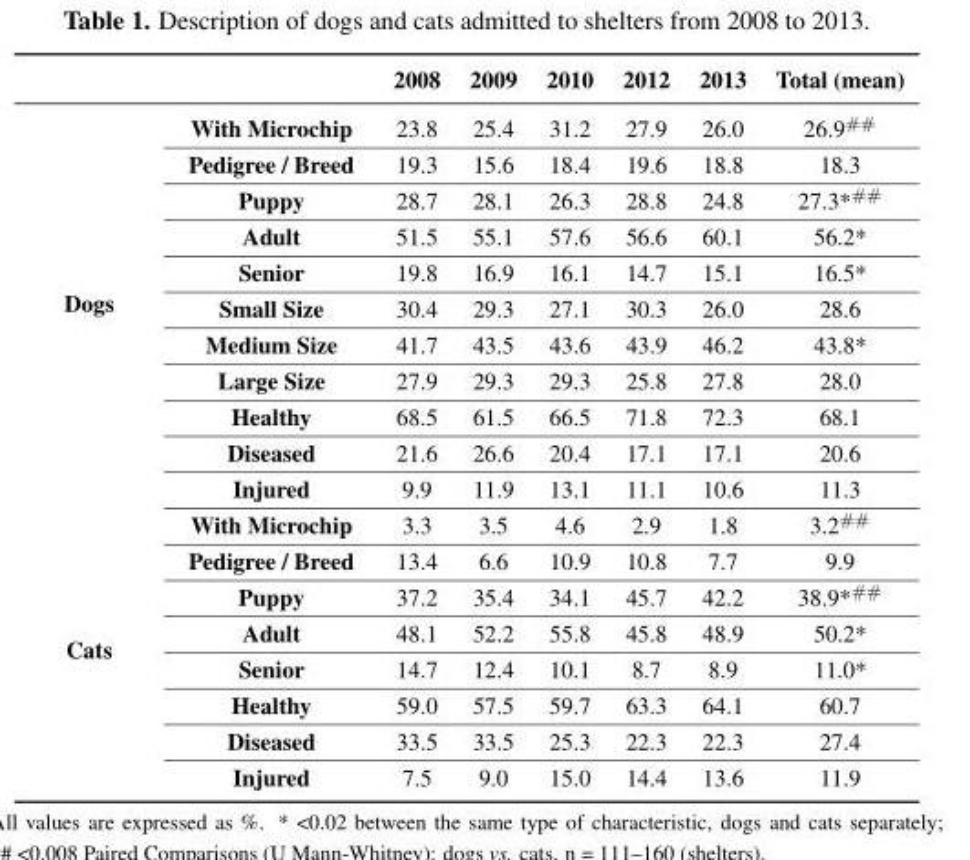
<table><thead><tr><td></td><td></td><td>2008</td><td>2009</td><td>2010</td><td>2012</td><td>2013</td><td>Total (mean)</td></tr></thead><tbody><tr><td rowspan="11">Dogs</td><td>With Microchip</td><td>23.8</td><td>25.4</td><td>31.2</td><td>27.9</td><td>26.0</td><td>26.9<sup>##</sup></td></tr><tr><td>Pedigree / Breed</td><td>19.3</td><td>15.6</td><td>18.4</td><td>19.6</td><td>18.8</td><td>18.3</td></tr><tr><td>Puppy</td><td>28.7</td><td>28.1</td><td>26.3</td><td>28.8</td><td>24.8</td><td>27.3*<sup>##</sup></td></tr><tr><td>Adult</td><td>51.5</td><td>55.1</td><td>57.6</td><td>56.6</td><td>60.1</td><td>56.2*</td></tr><tr><td>Senior</td><td>19.8</td><td>16.9</td><td>16.1</td><td>14.7</td><td>15.1</td><td>16.5*</td></tr><tr><td>Small Size</td><td>30.4</td><td>29.3</td><td>27.1</td><td>30.3</td><td>26.0</td><td>28.6</td></tr><tr><td>Medium Size</td><td>41.7</td><td>43.5</td><td>43.6</td><td>43.9</td><td>46.2</td><td>43.8*</td></tr><tr><td>Large Size</td><td>27.9</td><td>29.3</td><td>29.3</td><td>25.8</td><td>27.8</td><td>28.0</td></tr><tr><td>Healthy</td><td>68.5</td><td>61.5</td><td>66.5</td><td>71.8</td><td>72.3</td><td>68.1</td></tr><tr><td>Diseased</td><td>21.6</td><td>26.6</td><td>20.4</td><td>17.1</td><td>17.1</td><td>20.6</td></tr><tr><td>Injured</td><td>9.9</td><td>11.9</td><td>13.1</td><td>11.1</td><td>10.6</td><td>11.3</td></tr><tr><td rowspan="8">Cats</td><td>With Microchip</td><td>3.3</td><td>3.5</td><td>4.6</td><td>2.9</td><td>1.8</td><td>3.2<sup>##</sup></td></tr><tr><td>Pedigree / Breed</td><td>13.4</td><td>6.6</td><td>10.9</td><td>10.8</td><td>7.7</td><td>9.9</td></tr><tr><td>Puppy</td><td>37.2</td><td>35.4</td><td>34.1</td><td>45.7</td><td>42.2</td><td>38.9*<sup>##</sup></td></tr><tr><td>Adult</td><td>48.1</td><td>52.2</td><td>55.8</td><td>45.8</td><td>48.9</td><td>50.2*</td></tr><tr><td>Senior</td><td>14.7</td><td>12.4</td><td>10.1</td><td>8.7</td><td>8.9</td><td>11.0*</td></tr><tr><td>Healthy</td><td>59.0</td><td>57.5</td><td>59.7</td><td>63.3</td><td>64.1</td><td>60.7</td></tr><tr><td>Diseased</td><td>33.5</td><td>33.5</td><td>25.3</td><td>22.3</td><td>22.3</td><td>27.4</td></tr><tr><td>Injured</td><td>7.5</td><td>9.0</td><td>15.0</td><td>14.4</td><td>13.6</td><td>11.9</td></tr></tbody></table>